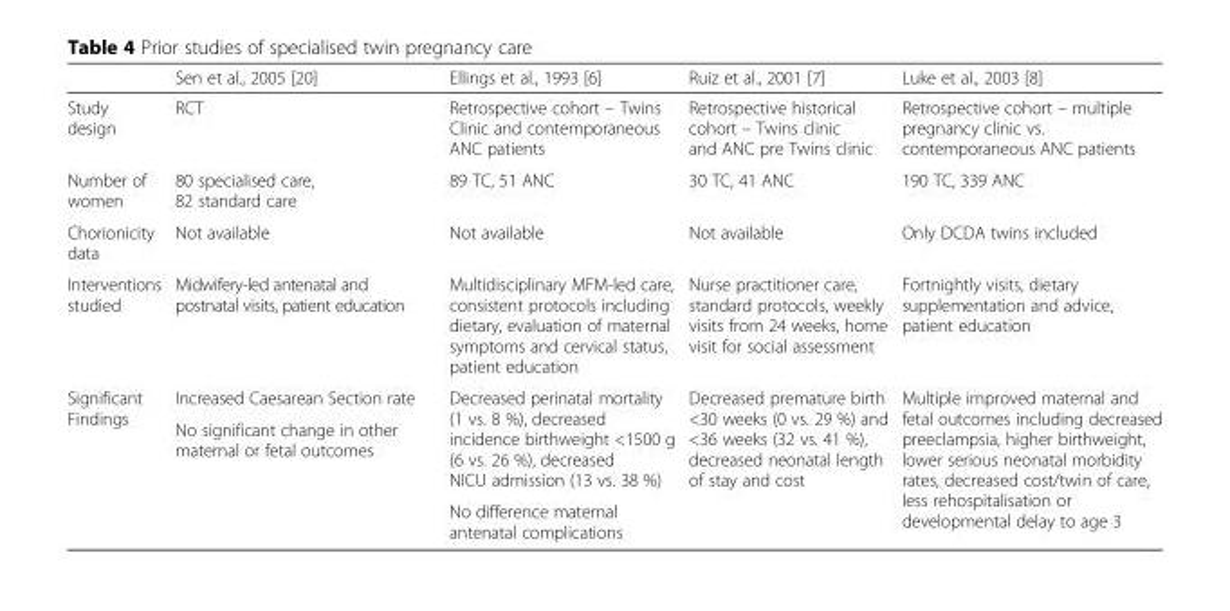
<table><thead><tr><td></td><td>Sen et al., 2005 [20]</td><td>Ellings et al., 1993 [6]</td><td>Ruiz et al., 2001 [7]</td><td>Luke et al., 2003 [8]</td></tr></thead><tbody><tr><td>Study design</td><td>RCT</td><td>Retrospective cohort – Twins Clinic and contemporaneous ANC patients</td><td>Retrospective historical cohort – Twins clinic and ANC pre Twins clinic</td><td>Retrospective cohort – multiple pregnancy clinic vs. contemporaneous ANC patients</td></tr><tr><td>Number of women</td><td>80 specialised care, 82 standard care</td><td>89 TC, 51 ANC</td><td>30 TC, 41 ANC</td><td>190 TC, 339 ANC</td></tr><tr><td>Chorionicity data</td><td>Not available</td><td>Not available</td><td>Not available</td><td>Only DCDA twins included</td></tr><tr><td>Interventions studied</td><td>Midwifery-led antenatal and postnatal visits, patient education</td><td>Multidisciplinary MFM-led care, consistent protocols including dietary, evaluation of maternal symptoms and cervical status, patient education</td><td>Nurse practitioner care, standard protocols, weekly visits from 24 weeks, home visit for social assessment</td><td>Fortnightly visits, dietary supplementation and advice, patient education</td></tr><tr><td rowspan="3">Significant Findings</td><td>Increased Caesarean Section rate</td><td rowspan="2">Decreased perinatal mortality (1 vs. 8 %), decreased incidence birthweight &lt;1500 g (6 vs. 26 %), decreased NICU admission (13 vs. 38 %)</td><td rowspan="3">Decreased premature birth &lt;30 weeks (0 vs. 29 %) and &lt;36 weeks (32 vs. 41 %), decreased neonatal length of stay and cost</td><td rowspan="3">Multiple improved maternal and fetal outcomes including decreased preeclampsia, higher birthweight, lower serious neonatal morbidity rates, decreased cost/twin of care, less rehospitalisation or developmental delay to age 3</td></tr><tr><td rowspan="2">No significant change in other maternal or fetal outcomes</td></tr><tr><td>No difference maternal antenatal complications</td></tr></tbody></table>